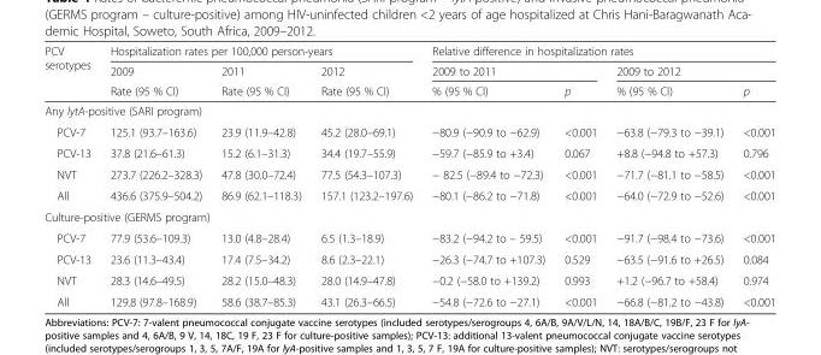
<table><thead><tr><td rowspan="3">PCV serotypes</td><td colspan="3">Hospitalization rates per 100,000 person-years</td><td colspan="4">Relative difference in hospitalization rates</td></tr><tr><td rowspan="2">2009 Rate (95 % CI)</td><td rowspan="2">2011 Rate (95 % CI)</td><td rowspan="2">2012 Rate (95 % CI)</td><td colspan="2">2009 to 2011</td><td colspan="2">2009 to 2012</td></tr><tr><td>% (95 % CI)</td><td>p</td><td>% (95 % CI)</td><td>p</td></tr></thead><tbody><tr><td colspan="8">Any lytA-positive (SARI program)</td></tr><tr><td>PCV-7</td><td>125.1 (93.7–163.6)</td><td>23.9 (11.9–42.8)</td><td>45.2 (28.0–69.1)</td><td>−80.9 (−90.9 to −62.9)</td><td>&lt;0.001</td><td>−63.8 (−79.3 to −39.1)</td><td>&lt;0.001</td></tr><tr><td>PCV-13</td><td>37.8 (21.6–61.3)</td><td>15.2 (6.1–31.3)</td><td>34.4 (19.7–55.9)</td><td>−59.7 (−85.9 to +3.4)</td><td>0.067</td><td>+8.8 (−94.8 to +57.3)</td><td>0.796</td></tr><tr><td>NVT</td><td>273.7 (226.2–328.3)</td><td>47.8 (30.0–72.4)</td><td>77.5 (54.3–107.3)</td><td>− 82.5 (−89.4 to −72.3)</td><td>&lt;0.001</td><td>−71.7 (−81.1 to −58.5)</td><td>&lt;0.001</td></tr><tr><td>All</td><td>436.6 (375.9–504.2)</td><td>86.9 (62.1–118.3)</td><td>157.1 (123.2–197.6)</td><td>−80.1 (−86.2 to −71.8)</td><td>&lt;0.001</td><td>−64.0 (−72.9 to −52.6)</td><td>&lt;0.001</td></tr><tr><td colspan="8">Culture-positive (GERMS program)</td></tr><tr><td>PCV-7</td><td>77.9 (53.6–109.3)</td><td>13.0 (4.8–28.4)</td><td>6.5 (1.3–18.9)</td><td>−83.2 (−94.2 to – 59.5)</td><td>&lt;0.001</td><td>−91.7 (−98.4 to −73.6)</td><td>&lt;0.001</td></tr><tr><td>PCV-13</td><td>23.6 (11.3–43.4)</td><td>17.4 (7.5–34.2)</td><td>8.6 (2.3–22.1)</td><td>−26.3 (−74.7 to +107.3)</td><td>0.529</td><td>−63.5 (−91.6 to +26.5)</td><td>0.084</td></tr><tr><td>NVT</td><td>28.3 (14.6–49.5)</td><td>28.2 (15.0–48.3)</td><td>28.0 (14.9–47.8)</td><td>−0.2 (−58.0 to +139.2)</td><td>0.993</td><td>+1.2 (−96.7 to +58.4)</td><td>0.974</td></tr><tr><td>All</td><td>129.8 (97.8–168.9)</td><td>58.6 (38.7–85.3)</td><td>43.1 (26.3–66.5)</td><td>−54.8 (−72.6 to −27.1)</td><td>&lt;0.001</td><td>−66.8 (−81.2 to −43.8)</td><td>&lt;0.001</td></tr></tbody></table>